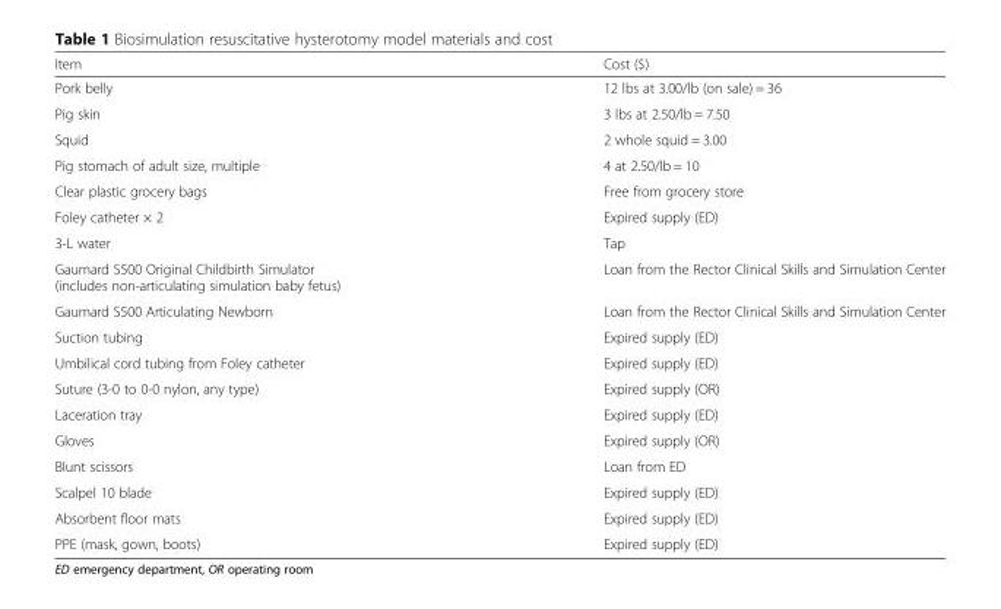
<table><thead><tr><td>Item</td><td>Cost ($)</td></tr></thead><tbody><tr><td>Pork belly</td><td>12 lbs at 3.00/lb (on sale) = 36</td></tr><tr><td>Pig skin</td><td>3 lbs at 2.50/lb = 7.50</td></tr><tr><td>Squid</td><td>2 whole squid = 3.00</td></tr><tr><td>Pig stomach of adult size, multiple</td><td>4 at 2.50/lb = 10</td></tr><tr><td>Clear plastic grocery bags</td><td>Free from grocery store</td></tr><tr><td>Foley catheter × 2</td><td>Expired supply (ED)</td></tr><tr><td>3-L water</td><td>Tap</td></tr><tr><td>Gaumard S500 Original Childbirth Simulator (includes non-articulating simulation baby fetus)</td><td>Loan from the Rector Clinical Skills and Simulation Center</td></tr><tr><td>Gaumard S500 Articulating Newborn</td><td>Loan from the Rector Clinical Skills and Simulation Center</td></tr><tr><td>Suction tubing</td><td>Expired supply (ED)</td></tr><tr><td>Umbilical cord tubing from Foley catheter</td><td>Expired supply (ED)</td></tr><tr><td>Suture (3-0 to 0-0 nylon, any type)</td><td>Expired supply (OR)</td></tr><tr><td>Laceration tray</td><td>Expired supply (ED)</td></tr><tr><td>Gloves</td><td>Expired supply (OR)</td></tr><tr><td>Blunt scissors</td><td>Loan from ED</td></tr><tr><td>Scalpel 10 blade</td><td>Expired supply (ED)</td></tr><tr><td>Absorbent floor mats</td><td>Expired supply (ED)</td></tr><tr><td>PPE (mask, gown, boots)</td><td>Expired supply (ED)</td></tr></tbody></table>